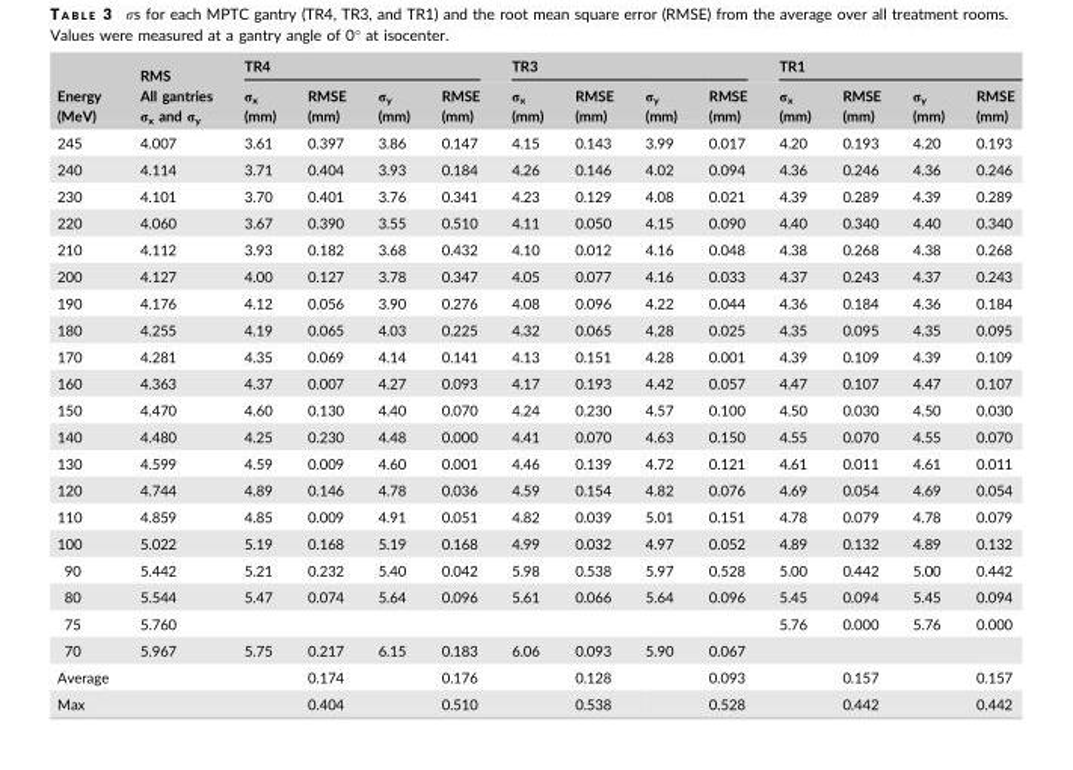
<table><thead><tr><td rowspan="2">Energy (MeV)</td><td rowspan="2">RMS All gantries σ<sub>x</sub> and σ<sub>y</sub></td><td colspan="4">TR4</td><td colspan="4">TR3</td><td colspan="4">TR1</td></tr><tr><td>σ<sub>x</sub> (mm)</td><td>RMSE (mm)</td><td>σ<sub>y</sub> (mm)</td><td>RMSE (mm)</td><td>σ<sub>x</sub> (mm)</td><td>RMSE (mm)</td><td>σ<sub>y</sub> (mm)</td><td>RMSE (mm)</td><td>σ<sub>x</sub> (mm)</td><td>RMSE (mm)</td><td>σ<sub>y</sub> (mm)</td><td>RMSE (mm)</td></tr></thead><tbody><tr><td>245</td><td>4.007</td><td>3.61</td><td>0.397</td><td>3.86</td><td>0.147</td><td>4.15</td><td>0.143</td><td>3.99</td><td>0.017</td><td>4.20</td><td>0.193</td><td>4.20</td><td>0.193</td></tr><tr><td>240</td><td>4.114</td><td>3.71</td><td>0.404</td><td>3.93</td><td>0.184</td><td>4.26</td><td>0.146</td><td>4.02</td><td>0.094</td><td>4.36</td><td>0.246</td><td>4.36</td><td>0.246</td></tr><tr><td>230</td><td>4.101</td><td>3.70</td><td>0.401</td><td>3.76</td><td>0.341</td><td>4.23</td><td>0.129</td><td>4.08</td><td>0.021</td><td>4.39</td><td>0.289</td><td>4.39</td><td>0.289</td></tr><tr><td>220</td><td>4.060</td><td>3.67</td><td>0.390</td><td>3.55</td><td>0.510</td><td>4.11</td><td>0.050</td><td>4.15</td><td>0.090</td><td>4.40</td><td>0.340</td><td>4.40</td><td>0.340</td></tr><tr><td>210</td><td>4.112</td><td>3.93</td><td>0.182</td><td>3.68</td><td>0.432</td><td>4.10</td><td>0.012</td><td>4.16</td><td>0.048</td><td>4.38</td><td>0.268</td><td>4.38</td><td>0.268</td></tr><tr><td>200</td><td>4.127</td><td>4.00</td><td>0.127</td><td>3.78</td><td>0.347</td><td>4.05</td><td>0.077</td><td>4.16</td><td>0.033</td><td>4.37</td><td>0.243</td><td>4.37</td><td>0.243</td></tr><tr><td>190</td><td>4.176</td><td>4.12</td><td>0.056</td><td>3.90</td><td>0.276</td><td>4.08</td><td>0.096</td><td>4.22</td><td>0.044</td><td>4.36</td><td>0.184</td><td>4.36</td><td>0.184</td></tr><tr><td>180</td><td>4.255</td><td>4.19</td><td>0.065</td><td>4.03</td><td>0.225</td><td>4.32</td><td>0.065</td><td>4.28</td><td>0.025</td><td>4.35</td><td>0.095</td><td>4.35</td><td>0.095</td></tr><tr><td>170</td><td>4.281</td><td>4.35</td><td>0.069</td><td>4.14</td><td>0.141</td><td>4.13</td><td>0.151</td><td>4.28</td><td>0.001</td><td>4.39</td><td>0.109</td><td>4.39</td><td>0.109</td></tr><tr><td>160</td><td>4.363</td><td>4.37</td><td>0.007</td><td>4.27</td><td>0.093</td><td>4.17</td><td>0.193</td><td>4.42</td><td>0.057</td><td>4.47</td><td>0.107</td><td>4.47</td><td>0.107</td></tr><tr><td>150</td><td>4.470</td><td>4.60</td><td>0.130</td><td>4.40</td><td>0.070</td><td>4.24</td><td>0.230</td><td>4.57</td><td>0.100</td><td>4.50</td><td>0.030</td><td>4.50</td><td>0.030</td></tr><tr><td>140</td><td>4.480</td><td>4.25</td><td>0.230</td><td>4.48</td><td>0.000</td><td>4.41</td><td>0.070</td><td>4.63</td><td>0.150</td><td>4.55</td><td>0.070</td><td>4.55</td><td>0.070</td></tr><tr><td>130</td><td>4.599</td><td>4.59</td><td>0.009</td><td>4.60</td><td>0.001</td><td>4.46</td><td>0.139</td><td>4.72</td><td>0.121</td><td>4.61</td><td>0.011</td><td>4.61</td><td>0.011</td></tr><tr><td>120</td><td>4.744</td><td>4.89</td><td>0.146</td><td>4.78</td><td>0.036</td><td>4.59</td><td>0.154</td><td>4.82</td><td>0.076</td><td>4.69</td><td>0.054</td><td>4.69</td><td>0.054</td></tr><tr><td>110</td><td>4.859</td><td>4.85</td><td>0.009</td><td>4.91</td><td>0.051</td><td>4.82</td><td>0.039</td><td>5.01</td><td>0.151</td><td>4.78</td><td>0.079</td><td>4.78</td><td>0.079</td></tr><tr><td>100</td><td>5.022</td><td>5.19</td><td>0.168</td><td>5.19</td><td>0.168</td><td>4.99</td><td>0.032</td><td>4.97</td><td>0.052</td><td>4.89</td><td>0.132</td><td>4.89</td><td>0.132</td></tr><tr><td>90</td><td>5.442</td><td>5.21</td><td>0.232</td><td>5.40</td><td>0.042</td><td>5.98</td><td>0.538</td><td>5.97</td><td>0.528</td><td>5.00</td><td>0.442</td><td>5.00</td><td>0.442</td></tr><tr><td>80</td><td>5.544</td><td>5.47</td><td>0.074</td><td>5.64</td><td>0.096</td><td>5.61</td><td>0.066</td><td>5.64</td><td>0.096</td><td>5.45</td><td>0.094</td><td>5.45</td><td>0.094</td></tr><tr><td>75</td><td>5.760</td><td></td><td></td><td></td><td></td><td></td><td></td><td></td><td></td><td>5.76</td><td>0.000</td><td>5.76</td><td>0.000</td></tr><tr><td>70</td><td>5.967</td><td>5.75</td><td>0.217</td><td>6.15</td><td>0.183</td><td>6.06</td><td>0.093</td><td>5.90</td><td>0.067</td><td></td><td></td><td></td><td></td></tr><tr><td>Average</td><td></td><td></td><td>0.174</td><td></td><td>0.176</td><td></td><td>0.128</td><td></td><td>0.093</td><td></td><td>0.157</td><td></td><td>0.157</td></tr><tr><td>Max</td><td></td><td></td><td>0.404</td><td></td><td>0.510</td><td></td><td>0.538</td><td></td><td>0.528</td><td></td><td>0.442</td><td></td><td>0.442</td></tr></tbody></table>